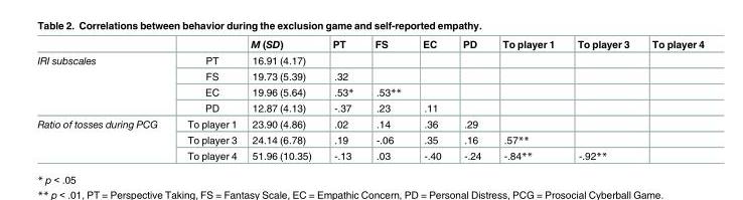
<table><thead><tr><td></td><td></td><td>M (SD)</td><td>PT</td><td>FS</td><td>EC</td><td>PD</td><td>To player 1</td><td>To player 3</td><td>To player 4</td></tr></thead><tbody><tr><td rowspan="4">IRI subscales</td><td>PT</td><td>16.91 (4.17)</td><td></td><td></td><td></td><td></td><td></td><td></td><td></td></tr><tr><td>FS</td><td>19.73 (5.39)</td><td>.32</td><td></td><td></td><td></td><td></td><td></td><td></td></tr><tr><td>EC</td><td>19.96 (5.64)</td><td>.53*</td><td>.53**</td><td></td><td></td><td></td><td></td><td></td></tr><tr><td>PD</td><td>12.87 (4.13)</td><td>-.37</td><td>.23</td><td>.11</td><td></td><td></td><td></td><td></td></tr><tr><td rowspan="3">Ratio of tosses during PCG</td><td>To player 1</td><td>23.90 (4.86)</td><td>.02</td><td>.14</td><td>.36</td><td>.29</td><td></td><td></td><td></td></tr><tr><td>To player 3</td><td>24.14 (6.78)</td><td>.19</td><td>-.06</td><td>.35</td><td>.16</td><td>.57**</td><td></td><td></td></tr><tr><td>To player 4</td><td>51.96 (10.35)</td><td>-.13</td><td>.03</td><td>-.40</td><td>-.24</td><td>-.84**</td><td>-.92**</td><td></td></tr></tbody></table>